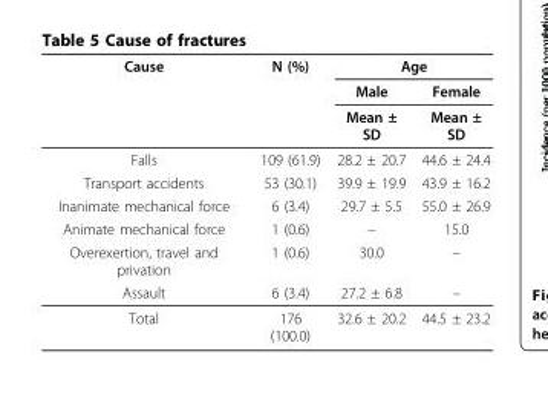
<table><thead><tr><td rowspan="3">Cause</td><td rowspan="3">N (%)</td><td colspan="2">Age</td></tr><tr><td rowspan="2">Male Mean ± SD</td><td rowspan="2">Female Mean ± SD</td></tr><tr></tr></thead><tbody><tr><td>Falls</td><td>109 (61.9)</td><td>28.2 ± 20.7</td><td>44.6 ± 24.4</td></tr><tr><td>Transport accidents</td><td>53 (30.1)</td><td>39.9 ± 19.9</td><td>43.9 ± 16.2</td></tr><tr><td>Inanimate mechanical force</td><td>6 (3.4)</td><td>29.7 ± 5.5</td><td>55.0 ± 26.9</td></tr><tr><td>Animate mechanical force</td><td>1 (0.6)</td><td>–</td><td>15.0</td></tr><tr><td>Overexertion, travel and privation</td><td>1 (0.6)</td><td>30.0</td><td>–</td></tr><tr><td>Assault</td><td>6 (3.4)</td><td>27.2 ± 6.8</td><td>–</td></tr><tr><td>Total</td><td>176 (100.0)</td><td>32.6 ± 20.2</td><td>44.5 ± 23.2</td></tr></tbody></table>